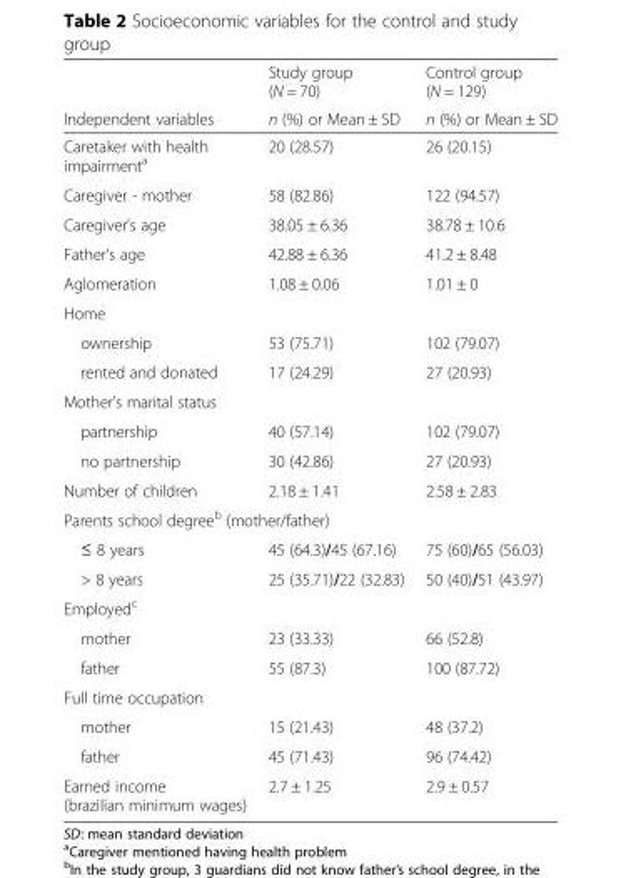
<table><thead><tr><td rowspan="2">Independent variables</td><td rowspan="2">Study group (N = 70) n (%) or Mean ± SD</td><td rowspan="2">Control group (N = 129) n (%) or Mean ± SD</td></tr><tr></tr></thead><tbody><tr><td>Caretaker with health impairment<sup>a</sup></td><td>20 (28.57)</td><td>26 (20.15)</td></tr><tr><td>Caregiver - mother</td><td>58 (82.86)</td><td>122 (94.57)</td></tr><tr><td>Caregiver’s age</td><td>38.05 ± 6.36</td><td>38.78 ± 10.6</td></tr><tr><td>Father’s age</td><td>42.88 ± 6.36</td><td>41.2 ± 8.48</td></tr><tr><td>Aglomeration</td><td>1.08 ± 0.06</td><td>1.01 ± 0</td></tr><tr><td colspan="3">Home</td></tr><tr><td>ownership</td><td>53 (75.71)</td><td>102 (79.07)</td></tr><tr><td>rented and donated</td><td>17 (24.29)</td><td>27 (20.93)</td></tr><tr><td colspan="3">Mother’s marital status</td></tr><tr><td>partnership</td><td>40 (57.14)</td><td>102 (79.07)</td></tr><tr><td>no partnership</td><td>30 (42.86)</td><td>27 (20.93)</td></tr><tr><td>Number of children</td><td>2.18 ± 1.41</td><td>2.58 ± 2.83</td></tr><tr><td colspan="3">Parents school degree<sup>b</sup> (mother/father)</td></tr><tr><td>≤ 8 years</td><td>45 (64.3)/45 (67.16)</td><td>75 (60)/65 (56.03)</td></tr><tr><td>&gt; 8 years</td><td>25 (35.71)/22 (32.83)</td><td>50 (40)/51 (43.97)</td></tr><tr><td colspan="3">Employed<sup>c</sup></td></tr><tr><td>mother</td><td>23 (33.33)</td><td>66 (52.8)</td></tr><tr><td>father</td><td>55 (87.3)</td><td>100 (87.72)</td></tr><tr><td colspan="3">Full time occupation</td></tr><tr><td>mother</td><td>15 (21.43)</td><td>48 (37.2)</td></tr><tr><td>father</td><td>45 (71.43)</td><td>96 (74.42)</td></tr><tr><td>Earned income (brazilian minimum wages)</td><td>2.7 ± 1.25</td><td>2.9 ± 0.57</td></tr></tbody></table>